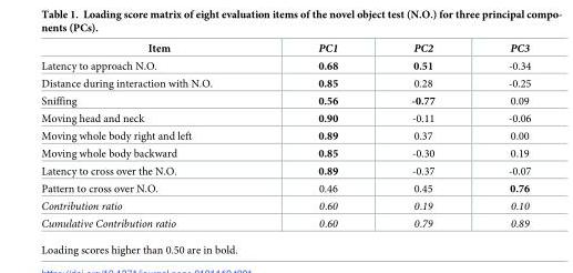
<table><thead><tr><td>Item</td><td>PC1</td><td>PC2</td><td>PC3</td></tr></thead><tbody><tr><td>Latency to approach N.O.</td><td>0.68</td><td>0.51</td><td>-0.34</td></tr><tr><td>Distance during interaction with N.O.</td><td>0.85</td><td>0.28</td><td>-0.25</td></tr><tr><td>Sniffing</td><td>0.56</td><td>-0.77</td><td>0.09</td></tr><tr><td>Moving head and neck</td><td>0.90</td><td>-0.11</td><td>-0.06</td></tr><tr><td>Moving whole body right and left</td><td>0.89</td><td>0.37</td><td>0.00</td></tr><tr><td>Moving whole body backward</td><td>0.85</td><td>-0.30</td><td>0.19</td></tr><tr><td>Latency to cross over the N.O.</td><td>0.89</td><td>-0.37</td><td>-0.07</td></tr><tr><td>Pattern to cross over N.O.</td><td>0.46</td><td>0.45</td><td>0.76</td></tr><tr><td>Contribution ratio</td><td>0.60</td><td>0.19</td><td>0.10</td></tr><tr><td>Cumulative Contribution ratio</td><td>0.60</td><td>0.79</td><td>0.89</td></tr></tbody></table>